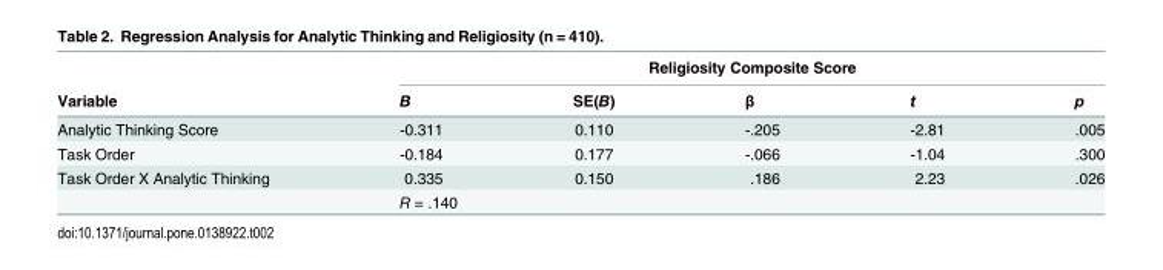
<table><thead><tr><td rowspan="2">Variable</td><td colspan="5">Religiosity Composite Score</td></tr><tr><td>B</td><td>SE(B)</td><td>β</td><td>t</td><td>p</td></tr></thead><tbody><tr><td>Analytic Thinking Score</td><td>-0.311</td><td>0.110</td><td>-.205</td><td>-2.81</td><td>.005</td></tr><tr><td>Task Order</td><td>-0.184</td><td>0.177</td><td>-.066</td><td>-1.04</td><td>.300</td></tr><tr><td rowspan="2">Task Order X Analytic Thinking</td><td>0.335</td><td>0.150</td><td>.186</td><td>2.23</td><td>.026</td></tr><tr><td colspan="2">R = .140</td><td></td><td></td><td></td></tr></tbody></table>